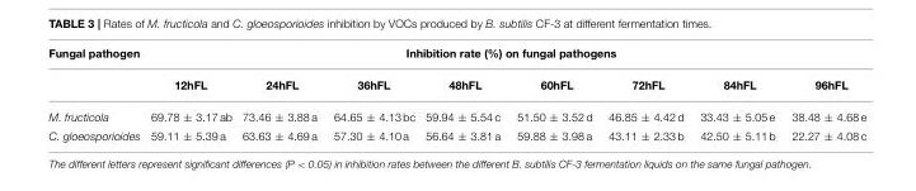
<table><thead><tr><td rowspan="2">Fungal pathogen</td><td colspan="8">Inhibition rate (%) on fungal pathogens</td></tr><tr><td>12hFL</td><td>24hFL</td><td>36hFL</td><td>48hFL</td><td>60hFL</td><td>72hFL</td><td>84hFL</td><td>96hFL</td></tr></thead><tbody><tr><td>M. fructicola</td><td>69.78 ± 3.17 ab</td><td>73.46 ± 3.88 a</td><td>64.65 ± 4.13 bc</td><td>59.94 ± 5.54 c</td><td>51.50 ± 3.52 d</td><td>46.85 ± 4.42 d</td><td>33.43 ± 5.05 e</td><td>38.48 ± 4.68 e</td></tr><tr><td>C. gloeosporioides</td><td>59.11 ± 5.39 a</td><td>63.63 ± 4.69 a</td><td>57.30 ± 4.10 a</td><td>56.64 ± 3.81 a</td><td>59.88 ± 3.98 a</td><td>43.11 ± 2.33 b</td><td>42.50 ± 5.11 b</td><td>22.27 ± 4.08 c</td></tr></tbody></table>